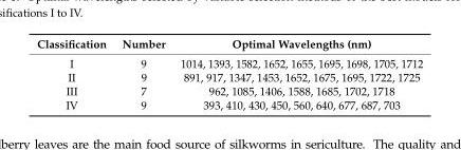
<table><thead><tr><td>Classification</td><td>Number</td><td>Optimal Wavelengths (nm)</td></tr></thead><tbody><tr><td>I</td><td>9</td><td>1014, 1393, 1582, 1652, 1655, 1695, 1698, 1705, 1712</td></tr><tr><td>II</td><td>9</td><td>891, 917, 1347, 1453, 1652, 1675, 1695, 1722, 1725</td></tr><tr><td>III</td><td>7</td><td>962, 1085, 1406, 1588, 1685, 1702, 1718</td></tr><tr><td>IV</td><td>9</td><td>393, 410, 430, 450, 560, 640, 677, 687, 703</td></tr></tbody></table>